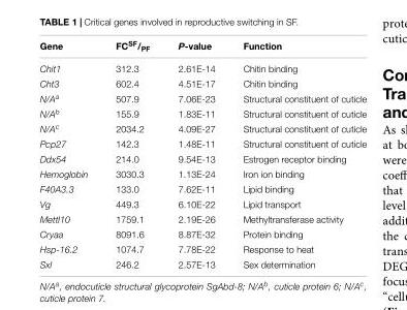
<table><thead><tr><td>Gene</td><td>FC<sup>SF</sup>/<sub>PF</sub></td><td>P-value</td><td>Function</td></tr></thead><tbody><tr><td>Chit1</td><td>312.3</td><td>2.61E-14</td><td>Chitin binding</td></tr><tr><td>Cht3</td><td>602.4</td><td>4.51E-17</td><td>Chitin binding</td></tr><tr><td>N/A<sup>a</sup></td><td>507.9</td><td>7.06E-23</td><td>Structural constituent of cuticle</td></tr><tr><td>N/A<sup>b</sup></td><td>155.9</td><td>1.83E-11</td><td>Structural constituent of cuticle</td></tr><tr><td>N/A<sup>c</sup></td><td>2034.2</td><td>4.09E-27</td><td>Structural constituent of cuticle</td></tr><tr><td>Pcp27</td><td>142.3</td><td>1.48E-11</td><td>Structural constituent of cuticle</td></tr><tr><td>Ddx54</td><td>214.0</td><td>9.54E-13</td><td>Estrogen receptor binding</td></tr><tr><td>Hemoglobin</td><td>3030.3</td><td>1.13E-24</td><td>Iron ion binding</td></tr><tr><td>F40A3.3</td><td>133.0</td><td>7.62E-11</td><td>Lipid binding</td></tr><tr><td>Vg</td><td>449.3</td><td>6.10E-22</td><td>Lipid transport</td></tr><tr><td>Mettl10</td><td>1759.1</td><td>2.19E-26</td><td>Methyltransferase activity</td></tr><tr><td>Cryaa</td><td>8091.6</td><td>8.87E-32</td><td>Protein binding</td></tr><tr><td>Hsp-16.2</td><td>1074.7</td><td>7.78E-22</td><td>Response to heat</td></tr><tr><td>Sxl</td><td>246.2</td><td>2.57E-13</td><td>Sex determination</td></tr></tbody></table>